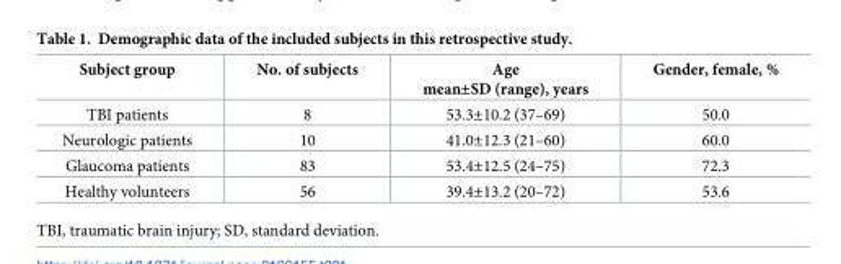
<table><thead><tr><td>Subject group</td><td>No. of subjects</td><td>Age mean±SD (range), years</td><td>Gender, female, %</td></tr></thead><tbody><tr><td>TBI patients</td><td>8</td><td>53.3±10.2 (37–69)</td><td>50.0</td></tr><tr><td>Neurologic patients</td><td>10</td><td>41.0±12.3 (21–60)</td><td>60.0</td></tr><tr><td>Glaucoma patients</td><td>83</td><td>53.4±12.5 (24–75)</td><td>72.3</td></tr><tr><td>Healthy volunteers</td><td>56</td><td>39.4±13.2 (20–72)</td><td>53.6</td></tr></tbody></table>